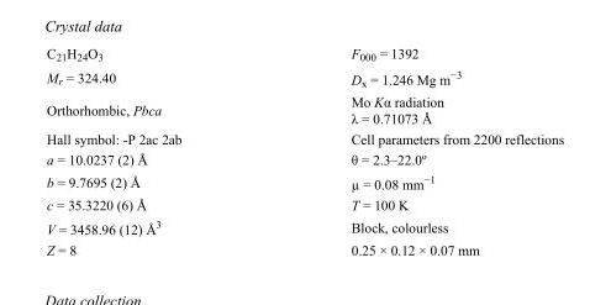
<table><tbody><tr><td>C<sub>21</sub>H<sub>24</sub>O<sub>3</sub></td><td>F000 = 1392</td></tr><tr><td>M<sub>r</sub> = 324.40</td><td>D<sub>x</sub> = 1.246 Mg m<sup>−3</sup></td></tr><tr><td>Orthorhombic, Pbca</td><td>Mo Kα radiation λ = 0.71073 Å</td></tr><tr><td>Hall symbol: -P 2ac 2ab</td><td>Cell parameters from 2200 reflections</td></tr><tr><td>a = 10.0237 (2) Å</td><td>θ = 2.3–22.0º</td></tr><tr><td>b = 9.7695 (2) Å</td><td>µ = 0.08 mm<sup>−1</sup></td></tr><tr><td>c = 35.3220 (6) Å</td><td>T = 100 K</td></tr><tr><td>V = 3458.96 (12) Å<sup>3</sup></td><td>Block, colourless</td></tr><tr><td>Z = 8</td><td>0.25 × 0.12 × 0.07 mm</td></tr></tbody></table>